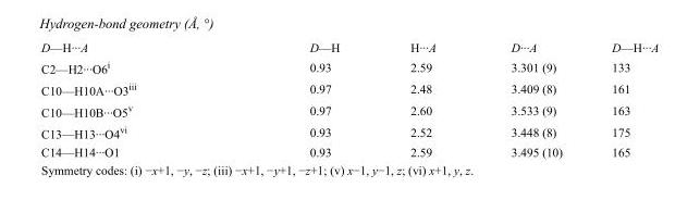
<table><tbody><tr><td>D—H···A</td><td>D—H</td><td>H···A</td><td>D···A</td><td>D—H···A</td></tr><tr><td>C2—H2···O6<sup>i</sup></td><td>0.93</td><td>2.59</td><td>3.301 (9)</td><td>133</td></tr><tr><td>C10—H10A···O3<sup>iii</sup></td><td>0.97</td><td>2.48</td><td>3.409 (8)</td><td>161</td></tr><tr><td>C10—H10B···O5<sup>v</sup></td><td>0.97</td><td>2.60</td><td>3.533 (9)</td><td>163</td></tr><tr><td>C13—H13···O4<sup>vi</sup></td><td>0.93</td><td>2.52</td><td>3.448 (8)</td><td>175</td></tr><tr><td>C14—H14···O1</td><td>0.93</td><td>2.59</td><td>3.495 (10)</td><td>165</td></tr></tbody></table>